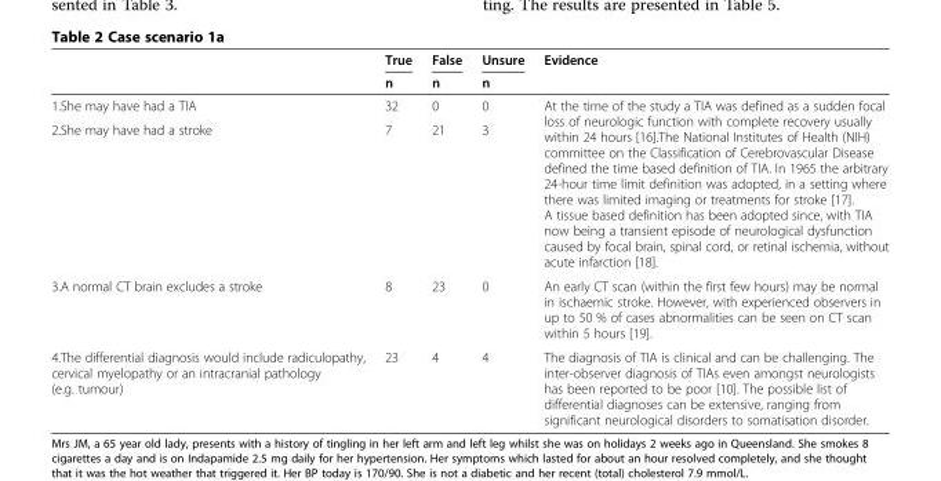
<table><thead><tr><td rowspan="2"></td><td rowspan="2">True n</td><td rowspan="2">False n</td><td rowspan="2">Unsure n</td><td rowspan="2">Evidence</td></tr><tr></tr></thead><tbody><tr><td>1.She may have had a TIA</td><td>32</td><td>0</td><td>0</td><td rowspan="2">At the time of the study a TIA was defined as a sudden focal loss of neurologic function with complete recovery usually within 24 hours [16].The National Institutes of Health (NIH) committee on the Classification of Cerebrovascular Disease defined the time based definition of TIA. In 1965 the arbitrary 24-hour time limit definition was adopted, in a setting where there was limited imaging or treatments for stroke [17]. A tissue based definition has been adopted since, with TIA now being a transient episode of neurological dysfunction caused by focal brain, spinal cord, or retinal ischemia, without acute infarction [18].</td></tr><tr><td>2.She may have had a stroke</td><td>7</td><td>21</td><td>3</td></tr><tr><td>3.A normal CT brain excludes a stroke</td><td>8</td><td>23</td><td>0</td><td>An early CT scan (within the first few hours) may be normal in ischaemic stroke. However, with experienced observers in up to 50 % of cases abnormalities can be seen on CT scan within 5 hours [19].</td></tr><tr><td>4.The differential diagnosis would include radiculopathy, cervical myelopathy or an intracranial pathology (e.g. tumour)</td><td>23</td><td>4</td><td>4</td><td>The diagnosis of TIA is clinical and can be challenging. The inter-observer diagnosis of TIAs even amongst neurologists has been reported to be poor [10]. The possible list of differential diagnoses can be extensive, ranging from significant neurological disorders to somatisation disorder.</td></tr></tbody></table>